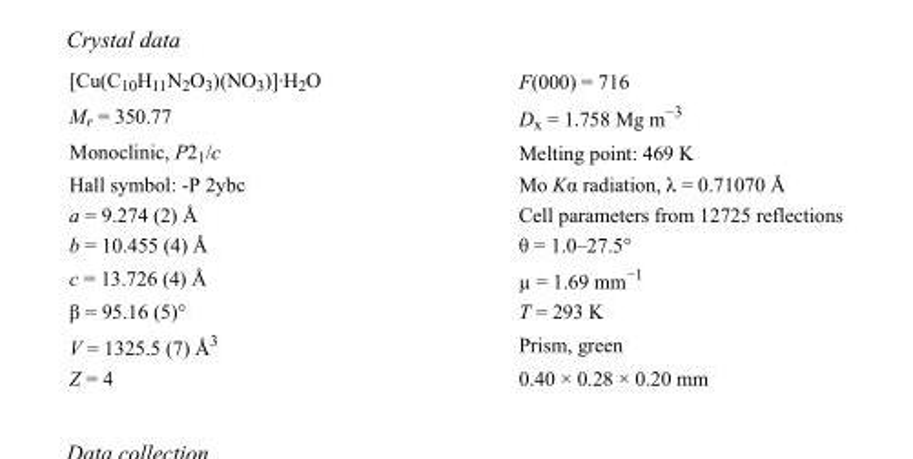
<table><tbody><tr><td>[Cu(C<sub>10</sub>H<sub>11</sub>N<sub>2</sub>O<sub>3</sub>)(NO<sub>3</sub>)]·H<sub>2</sub>O</td><td>F(000) = 716</td></tr><tr><td>M<sub>r</sub> = 350.77</td><td>D<sub>x</sub> = 1.758 Mg m<sup>−3</sup></td></tr><tr><td>Monoclinic, P2<sub>1</sub>/c</td><td>Melting point: 469 K</td></tr><tr><td>Hall symbol: -P 2ybc</td><td>Mo Kα radiation, λ = 0.71070 Å</td></tr><tr><td>a = 9.274 (2) Å</td><td>Cell parameters from 12725 reflections</td></tr><tr><td>b = 10.455 (4) Å</td><td>θ = 1.0–27.5°</td></tr><tr><td>c = 13.726 (4) Å</td><td>µ = 1.69 mm<sup>−1</sup></td></tr><tr><td>β = 95.16 (5)°</td><td>T = 293 K</td></tr><tr><td>V = 1325.5 (7) Å<sup>3</sup></td><td>Prism, green</td></tr><tr><td>Z = 4</td><td>0.40 × 0.28 × 0.20 mm</td></tr></tbody></table>